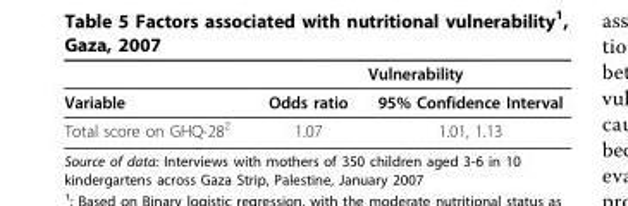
<table><thead><tr><td rowspan="2">Variable</td><td colspan="2">Vulnerability</td></tr><tr><td>Odds ratio</td><td>95% Confidence Interval</td></tr></thead><tbody><tr><td>Total score on GHQ-28<sup>2</sup></td><td>1.07</td><td>1.01, 1.13</td></tr></tbody></table>